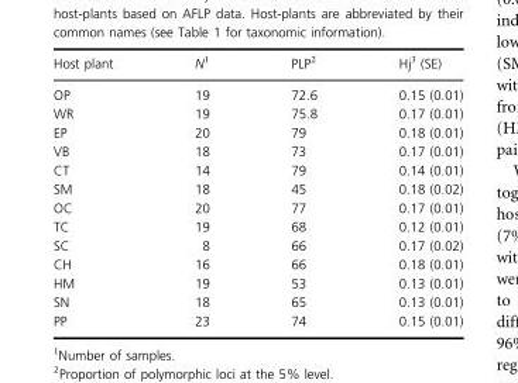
<table><thead><tr><td>Host plant</td><td>N1</td><td>PLP<sup>2</sup></td><td>Hj<sup>3</sup> (SE)</td></tr></thead><tbody><tr><td>OP</td><td>19</td><td>72.6</td><td>0.15 (0.01)</td></tr><tr><td>WR</td><td>19</td><td>75.8</td><td>0.17 (0.01)</td></tr><tr><td>EP</td><td>20</td><td>79</td><td>0.18 (0.01)</td></tr><tr><td>VB</td><td>18</td><td>73</td><td>0.17 (0.01)</td></tr><tr><td>CT</td><td>14</td><td>79</td><td>0.14 (0.01)</td></tr><tr><td>SM</td><td>18</td><td>45</td><td>0.18 (0.02)</td></tr><tr><td>OC</td><td>20</td><td>77</td><td>0.17 (0.01)</td></tr><tr><td>TC</td><td>19</td><td>68</td><td>0.12 (0.01)</td></tr><tr><td>SC</td><td>8</td><td>66</td><td>0.17 (0.02)</td></tr><tr><td>CH</td><td>16</td><td>66</td><td>0.18 (0.01)</td></tr><tr><td>HM</td><td>19</td><td>53</td><td>0.13 (0.01)</td></tr><tr><td>SN</td><td>18</td><td>65</td><td>0.13 (0.01)</td></tr><tr><td>PP</td><td>23</td><td>74</td><td>0.15 (0.01)</td></tr></tbody></table>